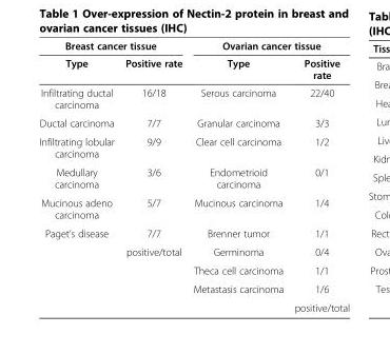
<table><thead><tr><td colspan="2">Breast cancer tissue</td><td colspan="2">Ovarian cancer tissue</td></tr><tr><td>Type</td><td>Positive rate</td><td>Type</td><td>Positive rate</td></tr></thead><tbody><tr><td>Infiltrating ductal carcinoma</td><td>16/18</td><td>Serous carcinoma</td><td>22/40</td></tr><tr><td>Ductal carcinoma</td><td>7/7</td><td>Granular carcinoma</td><td>3/3</td></tr><tr><td>Infiltrating lobular carcinoma</td><td>9/9</td><td>Clear cell carcinoma</td><td>1/2</td></tr><tr><td>Medullary carcinoma</td><td>3/6</td><td>Endometrioid carcinoma</td><td>0/1</td></tr><tr><td>Mucinous adeno carcinoma</td><td>5/7</td><td>Mucinous carcinoma</td><td>1/4</td></tr><tr><td rowspan="5">Paget’s disease</td><td>7/7</td><td>Brenner tumor</td><td>1/1</td></tr><tr><td>positive/total</td><td>Germinoma</td><td>0/4</td></tr><tr><td></td><td>Theca cell carcinoma</td><td>1/1</td></tr><tr><td></td><td>Metastasis carcinoma</td><td>1/6</td></tr><tr><td></td><td></td><td>positive/total</td></tr></tbody></table>